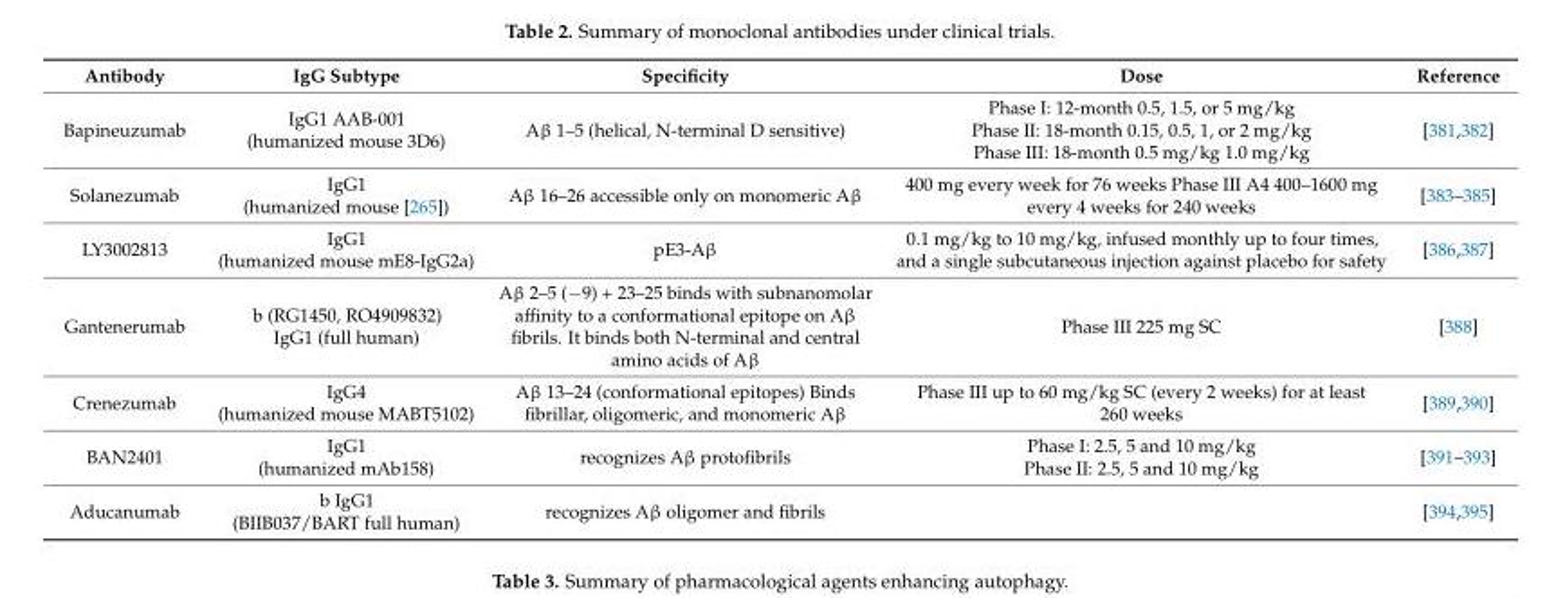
<table><thead><tr><td>Antibody</td><td>IgG Subtype</td><td>Specificity</td><td>Dose</td><td>Reference</td></tr></thead><tbody><tr><td>Bapineuzumab</td><td>IgG1 AAB-001 (humanized mouse 3D6)</td><td>Aβ 1–5 (helical, N-terminal D sensitive)</td><td>Phase I: 12-month 0.5, 1.5, or 5 mg/kg Phase II: 18-month 0.15, 0.5, 1, or 2 mg/kg Phase III: 18-month 0.5 mg/kg 1.0 mg/kg</td><td>[381,382]</td></tr><tr><td>Solanezumab</td><td>IgG1 (humanized mouse [265])</td><td>Aβ 16–26 accessible only on monomeric Aβ</td><td>400 mg every week for 76 weeks Phase III A4 400–1600 mg every 4 weeks for 240 weeks</td><td>[383–385]</td></tr><tr><td>LY3002813</td><td>IgG1 (humanized mouse mE8-IgG2a)</td><td>pE3-Aβ</td><td>0.1 mg/kg to 10 mg/kg, infused monthly up to four times, and a single subcutaneous injection against placebo for safety</td><td>[386,387]</td></tr><tr><td>Gantenerumab</td><td>b (RG1450, RO4909832) IgG1 (full human)</td><td>Aβ 2–5 (−9) + 23–25 binds with subnanomolar affinity to a conformational epitope on Aβ fibrils. It binds both N-terminal and central amino acids of Aβ</td><td>Phase III 225 mg SC</td><td>[388]</td></tr><tr><td>Crenezumab</td><td>IgG4 (humanized mouse MABT5102)</td><td>Aβ 13–24 (conformational epitopes) Binds fibrillar, oligomeric, and monomeric Aβ</td><td>Phase III up to 60 mg/kg SC (every 2 weeks) for at least 260 weeks</td><td>[389,390]</td></tr><tr><td>BAN2401</td><td>IgG1 (humanized mAb158)</td><td>recognizes Aβ protofibrils</td><td>Phase I: 2.5, 5 and 10 mg/kg Phase II: 2.5, 5 and 10 mg/kg</td><td>[391–393]</td></tr><tr><td>Aducanumab</td><td>b IgG1 (BIIB037/BART full human)</td><td>recognizes Aβ oligomer and fibrils</td><td></td><td>[394,395]</td></tr></tbody></table>